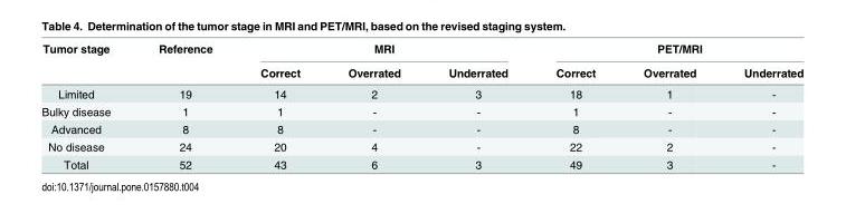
<table><thead><tr><td rowspan="2">Tumor stage</td><td rowspan="2">Reference</td><td colspan="3">MRI</td><td colspan="3">PET/MRI</td></tr><tr><td>Correct</td><td>Overrated</td><td>Underrated</td><td>Correct</td><td>Overrated</td><td>Underrated</td></tr></thead><tbody><tr><td>Limited</td><td>19</td><td>14</td><td>2</td><td>3</td><td>18</td><td>1</td><td>-</td></tr><tr><td>Bulky disease</td><td>1</td><td>1</td><td>-</td><td>-</td><td>1</td><td>-</td><td>-</td></tr><tr><td>Advanced</td><td>8</td><td>8</td><td>-</td><td>-</td><td>8</td><td>-</td><td>-</td></tr><tr><td>No disease</td><td>24</td><td>20</td><td>4</td><td>-</td><td>22</td><td>2</td><td>-</td></tr><tr><td>Total</td><td>52</td><td>43</td><td>6</td><td>3</td><td>49</td><td>3</td><td>-</td></tr></tbody></table>